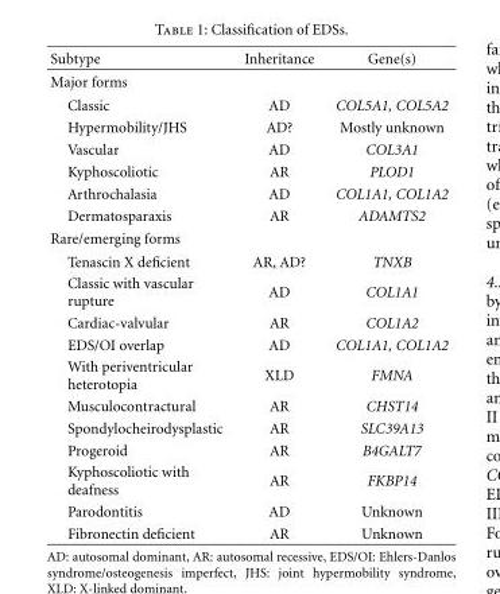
<table><thead><tr><td>Subtype</td><td>Inheritance</td><td>Gene(s)</td></tr></thead><tbody><tr><td colspan="3">Major forms</td></tr><tr><td>Classic</td><td>AD</td><td>COL5A1, COL5A2</td></tr><tr><td>Hypermobility/JHS</td><td>AD?</td><td>Mostly unknown</td></tr><tr><td>Vascular</td><td>AD</td><td>COL3A1</td></tr><tr><td>Kyphoscoliotic</td><td>AR</td><td>PLOD1</td></tr><tr><td>Arthrochalasia</td><td>AD</td><td>COL1A1, COL1A2</td></tr><tr><td>Dermatosparaxis</td><td>AR</td><td>ADAMTS2</td></tr><tr><td colspan="3">Rare/emerging forms</td></tr><tr><td>Tenascin X deficient</td><td>AR, AD?</td><td>TNXB</td></tr><tr><td>Classic with vascular rupture</td><td>AD</td><td>COL1A1</td></tr><tr><td>Cardiac-valvular</td><td>AR</td><td>COL1A2</td></tr><tr><td>EDS/OI overlap</td><td>AD</td><td>COL1A1, COL1A2</td></tr><tr><td>With periventricular heterotopia</td><td>XLD</td><td>FMNA</td></tr><tr><td>Musculocontractural</td><td>AR</td><td>CHST14</td></tr><tr><td>Spondylocheirodysplastic</td><td>AR</td><td>SLC39A13</td></tr><tr><td>Progeroid</td><td>AR</td><td>B4GALT7</td></tr><tr><td>Kyphoscoliotic with deafness</td><td>AR</td><td>FKBP14</td></tr><tr><td>Parodontitis</td><td>AD</td><td>Unknown</td></tr><tr><td>Fibronectin deficient</td><td>AR</td><td>Unknown</td></tr></tbody></table>